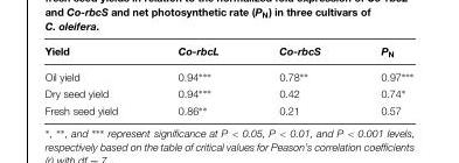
<table><thead><tr><td>Yield</td><td>Co-rbcL</td><td>Co-rbcS</td><td>P<sub>N</sub></td></tr></thead><tbody><tr><td>Oil yield</td><td>0.94∗∗∗</td><td>0.78∗∗</td><td>0.97∗∗∗</td></tr><tr><td>Dry seed yield</td><td>0.94∗∗∗</td><td>0.42</td><td>0.74∗</td></tr><tr><td>Fresh seed yield</td><td>0.86∗∗</td><td>0.21</td><td>0.57</td></tr></tbody></table>